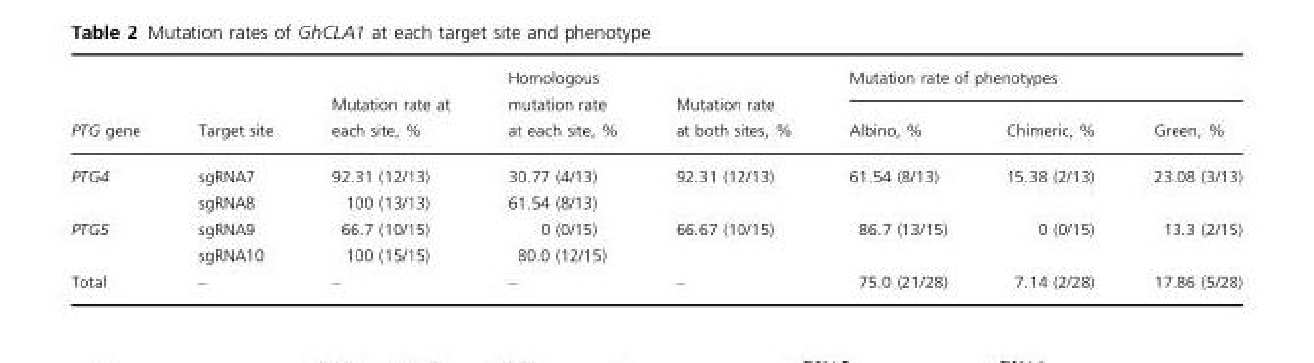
<table><thead><tr><td rowspan="2">PTG gene</td><td rowspan="2">Target site</td><td rowspan="2">Mutation rate at each site, %</td><td rowspan="2">Homologous mutation rate at each site, %</td><td rowspan="2">Mutation rate at both sites, %</td><td colspan="3">Mutation rate of phenotypes</td></tr><tr><td>Albino, %</td><td>Chimeric, %</td><td>Green, %</td></tr></thead><tbody><tr><td rowspan="2">PTG4</td><td>sgRNA7</td><td>92.31 (12/13)</td><td>30.77 (4/13)</td><td rowspan="2">92.31 (12/13)</td><td rowspan="2">61.54 (8/13)</td><td rowspan="2">15.38 (2/13)</td><td rowspan="2">23.08 (3/13)</td></tr><tr><td>sgRNA8</td><td>100 (13/13)</td><td>61.54 (8/13)</td></tr><tr><td rowspan="2">PTG5</td><td>sgRNA9</td><td>66.7 (10/15)</td><td>0 (0/15)</td><td rowspan="2">66.67 (10/15)</td><td rowspan="2">86.7 (13/15)</td><td rowspan="2">0 (0/15)</td><td rowspan="2">13.3 (2/15)</td></tr><tr><td>sgRNA10</td><td>100 (15/15)</td><td>80.0 (12/15)</td></tr><tr><td>Total</td><td>–</td><td>–</td><td>–</td><td>–</td><td>75.0 (21/28)</td><td>7.14 (2/28)</td><td>17.86 (5/28)</td></tr></tbody></table>